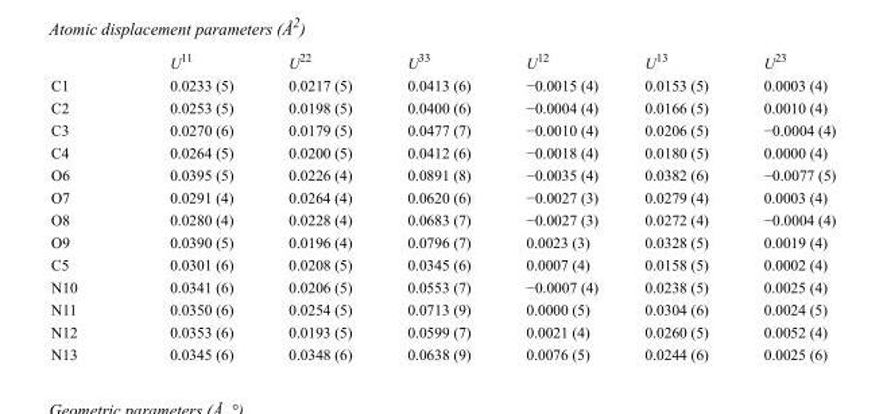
<table><thead><tr><td></td><td>U<sup>11</sup></td><td>U<sup>22</sup></td><td>U<sup>33</sup></td><td>U<sup>12</sup></td><td>U<sup>13</sup></td><td>U<sup>23</sup></td></tr></thead><tbody><tr><td>C1</td><td>0.0233 (5)</td><td>0.0217 (5)</td><td>0.0413 (6)</td><td>−0.0015 (4)</td><td>0.0153 (5)</td><td>0.0003 (4)</td></tr><tr><td>C2</td><td>0.0253 (5)</td><td>0.0198 (5)</td><td>0.0400 (6)</td><td>−0.0004 (4)</td><td>0.0166 (5)</td><td>0.0010 (4)</td></tr><tr><td>C3</td><td>0.0270 (6)</td><td>0.0179 (5)</td><td>0.0477 (7)</td><td>−0.0010 (4)</td><td>0.0206 (5)</td><td>−0.0004 (4)</td></tr><tr><td>C4</td><td>0.0264 (5)</td><td>0.0200 (5)</td><td>0.0412 (6)</td><td>−0.0018 (4)</td><td>0.0180 (5)</td><td>0.0000 (4)</td></tr><tr><td>O6</td><td>0.0395 (5)</td><td>0.0226 (4)</td><td>0.0891 (8)</td><td>−0.0035 (4)</td><td>0.0382 (6)</td><td>−0.0077 (5)</td></tr><tr><td>O7</td><td>0.0291 (4)</td><td>0.0264 (4)</td><td>0.0620 (6)</td><td>−0.0027 (3)</td><td>0.0279 (4)</td><td>0.0003 (4)</td></tr><tr><td>O8</td><td>0.0280 (4)</td><td>0.0228 (4)</td><td>0.0683 (7)</td><td>−0.0027 (3)</td><td>0.0272 (4)</td><td>−0.0004 (4)</td></tr><tr><td>O9</td><td>0.0390 (5)</td><td>0.0196 (4)</td><td>0.0796 (7)</td><td>0.0023 (3)</td><td>0.0328 (5)</td><td>0.0019 (4)</td></tr><tr><td>C5</td><td>0.0301 (6)</td><td>0.0208 (5)</td><td>0.0345 (6)</td><td>0.0007 (4)</td><td>0.0158 (5)</td><td>0.0002 (4)</td></tr><tr><td>N10</td><td>0.0341 (6)</td><td>0.0206 (5)</td><td>0.0553 (7)</td><td>−0.0007 (4)</td><td>0.0238 (5)</td><td>0.0025 (4)</td></tr><tr><td>N11</td><td>0.0350 (6)</td><td>0.0254 (5)</td><td>0.0713 (9)</td><td>0.0000 (5)</td><td>0.0304 (6)</td><td>0.0024 (5)</td></tr><tr><td>N12</td><td>0.0353 (6)</td><td>0.0193 (5)</td><td>0.0599 (7)</td><td>0.0021 (4)</td><td>0.0260 (5)</td><td>0.0052 (4)</td></tr><tr><td>N13</td><td>0.0345 (6)</td><td>0.0348 (6)</td><td>0.0638 (9)</td><td>0.0076 (5)</td><td>0.0244 (6)</td><td>0.0025 (6)</td></tr></tbody></table>